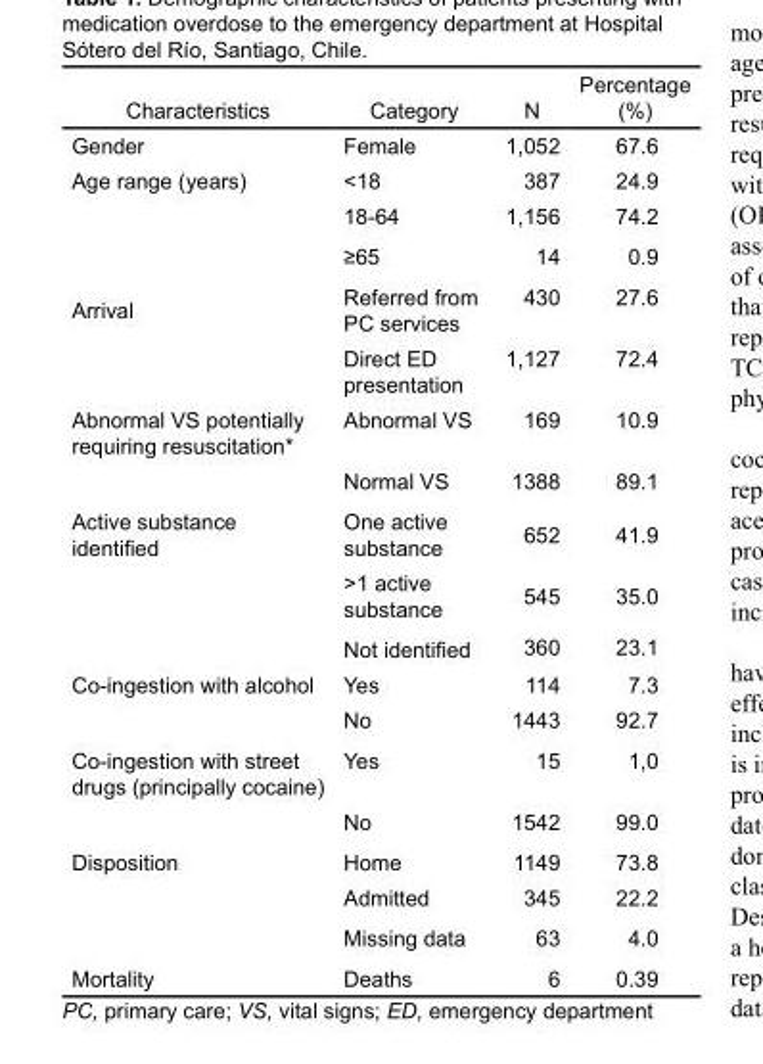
<table><thead><tr><td>Characteristics</td><td>Category</td><td>N</td><td>Percentage (%)</td></tr></thead><tbody><tr><td>Gender</td><td>Female</td><td>1,052</td><td>67.6</td></tr><tr><td rowspan="3">Age range (years)</td><td>&lt;18</td><td>387</td><td>24.9</td></tr><tr><td>18-64</td><td>1,156</td><td>74.2</td></tr><tr><td>≥65</td><td>14</td><td>0.9</td></tr><tr><td rowspan="2">Arrival</td><td>Referred from PC services</td><td>430</td><td>27.6</td></tr><tr><td>Direct ED presentation</td><td>1,127</td><td>72.4</td></tr><tr><td rowspan="2">Abnormal VS potentially requiring resuscitation*</td><td>Abnormal VS</td><td>169</td><td>10.9</td></tr><tr><td>Normal VS</td><td>1388</td><td>89.1</td></tr><tr><td rowspan="3">Active substance identified</td><td>One active substance</td><td>652</td><td>41.9</td></tr><tr><td>&gt;1 active substance</td><td>545</td><td>35.0</td></tr><tr><td>Not identified</td><td>360</td><td>23.1</td></tr><tr><td rowspan="2">Co-ingestion with alcohol</td><td>Yes</td><td>114</td><td>7.3</td></tr><tr><td>No</td><td>1443</td><td>92.7</td></tr><tr><td rowspan="2">Co-ingestion with street drugs (principally cocaine)</td><td>Yes</td><td>15</td><td>1,0</td></tr><tr><td>No</td><td>1542</td><td>99.0</td></tr><tr><td rowspan="3">Disposition</td><td>Home</td><td>1149</td><td>73.8</td></tr><tr><td>Admitted</td><td>345</td><td>22.2</td></tr><tr><td>Missing data</td><td>63</td><td>4.0</td></tr><tr><td>Mortality</td><td>Deaths</td><td>6</td><td>0.39</td></tr></tbody></table>